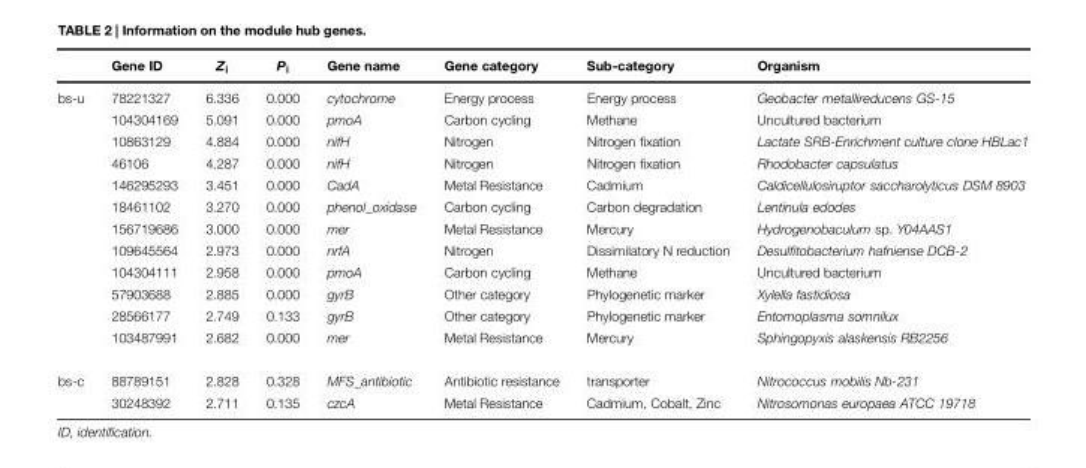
<table><thead><tr><td></td><td>Gene ID</td><td>Z<sub>i</sub></td><td>P<sub>i</sub></td><td>Gene name</td><td>Gene category</td><td>Sub-category</td><td>Organism</td></tr></thead><tbody><tr><td rowspan="12">bs-u</td><td>78221327</td><td>6.336</td><td>0.000</td><td>cytochrome</td><td>Energy process</td><td>Energy process</td><td>Geobacter metallireducens GS-15</td></tr><tr><td>104304169</td><td>5.091</td><td>0.000</td><td>pmoA</td><td>Carbon cycling</td><td>Methane</td><td>Uncultured bacterium</td></tr><tr><td>10863129</td><td>4.884</td><td>0.000</td><td>nifH</td><td>Nitrogen</td><td>Nitrogen fixation</td><td>Lactate SRB-Enrichment culture clone HBLac1</td></tr><tr><td>46106</td><td>4.287</td><td>0.000</td><td>nifH</td><td>Nitrogen</td><td>Nitrogen fixation</td><td>Rhodobacter capsulatus</td></tr><tr><td>146295293</td><td>3.451</td><td>0.000</td><td>CadA</td><td>Metal Resistance</td><td>Cadmium</td><td>Caldicellulosiruptor saccharolyticus DSM 8903</td></tr><tr><td>18461102</td><td>3.270</td><td>0.000</td><td>phenol_oxidase</td><td>Carbon cycling</td><td>Carbon degradation</td><td>Lentinula edodes</td></tr><tr><td>156719686</td><td>3.000</td><td>0.000</td><td>mer</td><td>Metal Resistance</td><td>Mercury</td><td>Hydrogenobaculum sp. Y04AAS1</td></tr><tr><td>109645564</td><td>2.973</td><td>0.000</td><td>nrfA</td><td>Nitrogen</td><td>Dissimilatory N reduction</td><td>Desulfitobacterium hafniense DCB-2</td></tr><tr><td>104304111</td><td>2.958</td><td>0.000</td><td>pmoA</td><td>Carbon cycling</td><td>Methane</td><td>Uncultured bacterium</td></tr><tr><td>57903688</td><td>2.885</td><td>0.000</td><td>gyrB</td><td>Other category</td><td>Phylogenetic marker</td><td>Xylella fastidiosa</td></tr><tr><td>28566177</td><td>2.749</td><td>0.133</td><td>gyrB</td><td>Other category</td><td>Phylogenetic marker</td><td>Entomoplasma somnilux</td></tr><tr><td>103487991</td><td>2.682</td><td>0.000</td><td>mer</td><td>Metal Resistance</td><td>Mercury</td><td>Sphingopyxis alaskensis RB2256</td></tr><tr><td rowspan="2">bs-c</td><td>88789151</td><td>2.828</td><td>0.328</td><td>MFS_antibiotic</td><td>Antibiotic resistance</td><td>transporter</td><td>Nitrococcus mobilis Nb-231</td></tr><tr><td>30248392</td><td>2.711</td><td>0.135</td><td>czcA</td><td>Metal Resistance</td><td>Cadmium, Cobalt, Zinc</td><td>Nitrosomonas europaea ATCC 19718</td></tr></tbody></table>